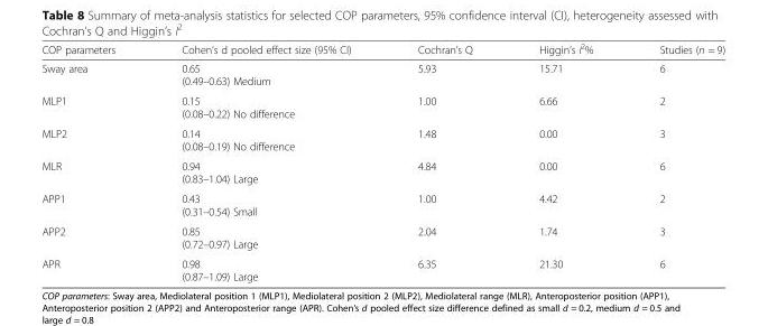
<table><thead><tr><td>COP parameters</td><td>Cohen’s d pooled effect size (95% CI)</td><td>Cochran’s Q</td><td>Higgin’s I<sup>2</sup>%</td><td>Studies (n = 9)</td></tr></thead><tbody><tr><td>Sway area</td><td>0.65 (0.49–0.63) Medium</td><td>5.93</td><td>15.71</td><td>6</td></tr><tr><td>MLP1</td><td>0.15 (0.08–0.22) No difference</td><td>1.00</td><td>6.66</td><td>2</td></tr><tr><td>MLP2</td><td>0.14 (0.08–0.19) No difference</td><td>1.48</td><td>0.00</td><td>3</td></tr><tr><td>MLR</td><td>0.94 (0.83–1.04) Large</td><td>4.84</td><td>0.00</td><td>6</td></tr><tr><td>APP1</td><td>0.43 (0.31–0.54) Small</td><td>1.00</td><td>4.42</td><td>2</td></tr><tr><td>APP2</td><td>0.85 (0.72–0.97) Large</td><td>2.04</td><td>1.74</td><td>3</td></tr><tr><td>APR</td><td>0.98 (0.87–1.09) Large</td><td>6.35</td><td>21.30</td><td>6</td></tr></tbody></table>